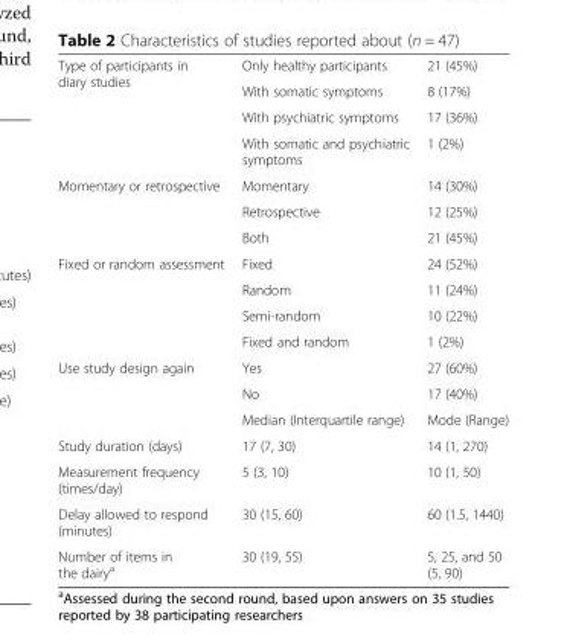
<table><tbody><tr><td rowspan="4">Type of participants in diary studies</td><td>Only healthy participants</td><td>21 (45%)</td></tr><tr><td>With somatic symptoms</td><td>8 (17%)</td></tr><tr><td>With psychiatric symptoms</td><td>17 (36%)</td></tr><tr><td>With somatic and psychiatric symptoms</td><td>1 (2%)</td></tr><tr><td rowspan="3">Momentary or retrospective</td><td>Momentary</td><td>14 (30%)</td></tr><tr><td>Retrospective</td><td>12 (25%)</td></tr><tr><td>Both</td><td>21 (45%)</td></tr><tr><td rowspan="4">Fixed or random assessment</td><td>Fixed</td><td>24 (52%)</td></tr><tr><td>Random</td><td>11 (24%)</td></tr><tr><td>Semi-random</td><td>10 (22%)</td></tr><tr><td>Fixed and random</td><td>1 (2%)</td></tr><tr><td rowspan="3">Use study design again</td><td>Yes</td><td>27 (60%)</td></tr><tr><td>No</td><td>17 (40%)</td></tr><tr><td>Median (Interquartile range)</td><td>Mode (Range)</td></tr><tr><td>Study duration (days)</td><td>17 (7, 30)</td><td>14 (1, 270)</td></tr><tr><td>Measurement frequency (times/day)</td><td>5 (3, 10)</td><td>10 (1, 50)</td></tr><tr><td>Delay allowed to respond (minutes)</td><td>30 (15, 60)</td><td>60 (1.5, 1440)</td></tr><tr><td>Number of items in the dairy<sup>a</sup></td><td>30 (19, 55)</td><td>5, 25, and 50 (5, 90)</td></tr></tbody></table>